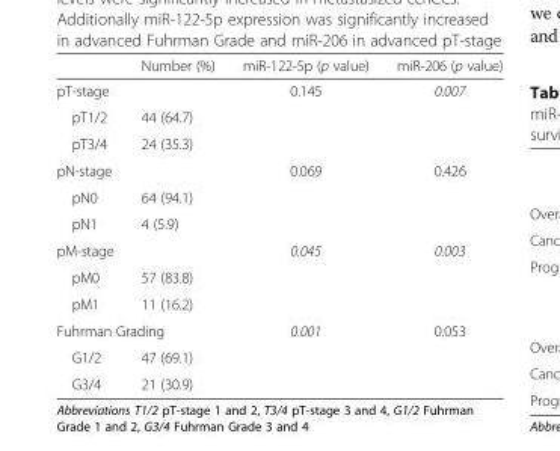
<table><thead><tr><td></td><td>Number (%)</td><td>miR-122-5p (p value)</td><td>miR-206 (p value)</td></tr></thead><tbody><tr><td>pT-stage</td><td></td><td>0.145</td><td>0.007</td></tr><tr><td>pT1/2</td><td>44 (64.7)</td><td></td><td></td></tr><tr><td>pT3/4</td><td>24 (35.3)</td><td></td><td></td></tr><tr><td>pN-stage</td><td></td><td>0.069</td><td>0.426</td></tr><tr><td>pN0</td><td>64 (94.1)</td><td></td><td></td></tr><tr><td>pN1</td><td>4 (5.9)</td><td></td><td></td></tr><tr><td>pM-stage</td><td></td><td>0.045</td><td>0.003</td></tr><tr><td>pM0</td><td>57 (83.8)</td><td></td><td></td></tr><tr><td>pM1</td><td>11 (16.2)</td><td></td><td></td></tr><tr><td colspan="2">Fuhrman Grading</td><td>0.001</td><td>0.053</td></tr><tr><td>G1/2</td><td>47 (69.1)</td><td></td><td></td></tr><tr><td>G3/4</td><td>21 (30.9)</td><td></td><td></td></tr></tbody></table>